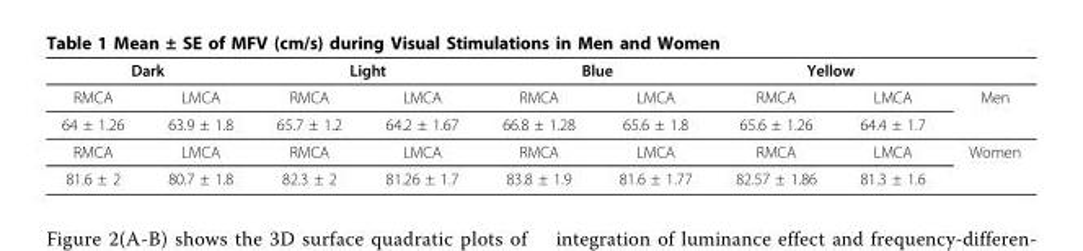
<table><thead><tr><td colspan="2">Dark</td><td colspan="2">Light</td><td colspan="2">Blue</td><td colspan="2">Yellow</td><td rowspan="2">Men</td></tr><tr><td>RMCA</td><td>LMCA</td><td>RMCA</td><td>LMCA</td><td>RMCA</td><td>LMCA</td><td>RMCA</td><td>LMCA</td></tr></thead><tbody><tr><td>64 ± 1.26</td><td>63.9 ± 1.8</td><td>65.7 ± 1.2</td><td>64.2 ± 1.67</td><td>66.8 ± 1.28</td><td>65.6 ± 1.8</td><td>65.6 ± 1.26</td><td>64.4 ± 1.7</td><td></td></tr><tr><td>RMCA</td><td>LMCA</td><td>RMCA</td><td>LMCA</td><td>RMCA</td><td>LMCA</td><td>RMCA</td><td>LMCA</td><td>Women</td></tr><tr><td>81.6 ± 2</td><td>80.7 ± 1.8</td><td>82.3 ± 2</td><td>81.26 ± 1.7</td><td>83.8 ± 1.9</td><td>81.6 ± 1.77</td><td>82.57 ± 1.86</td><td>81.3 ± 1.6</td><td></td></tr></tbody></table>